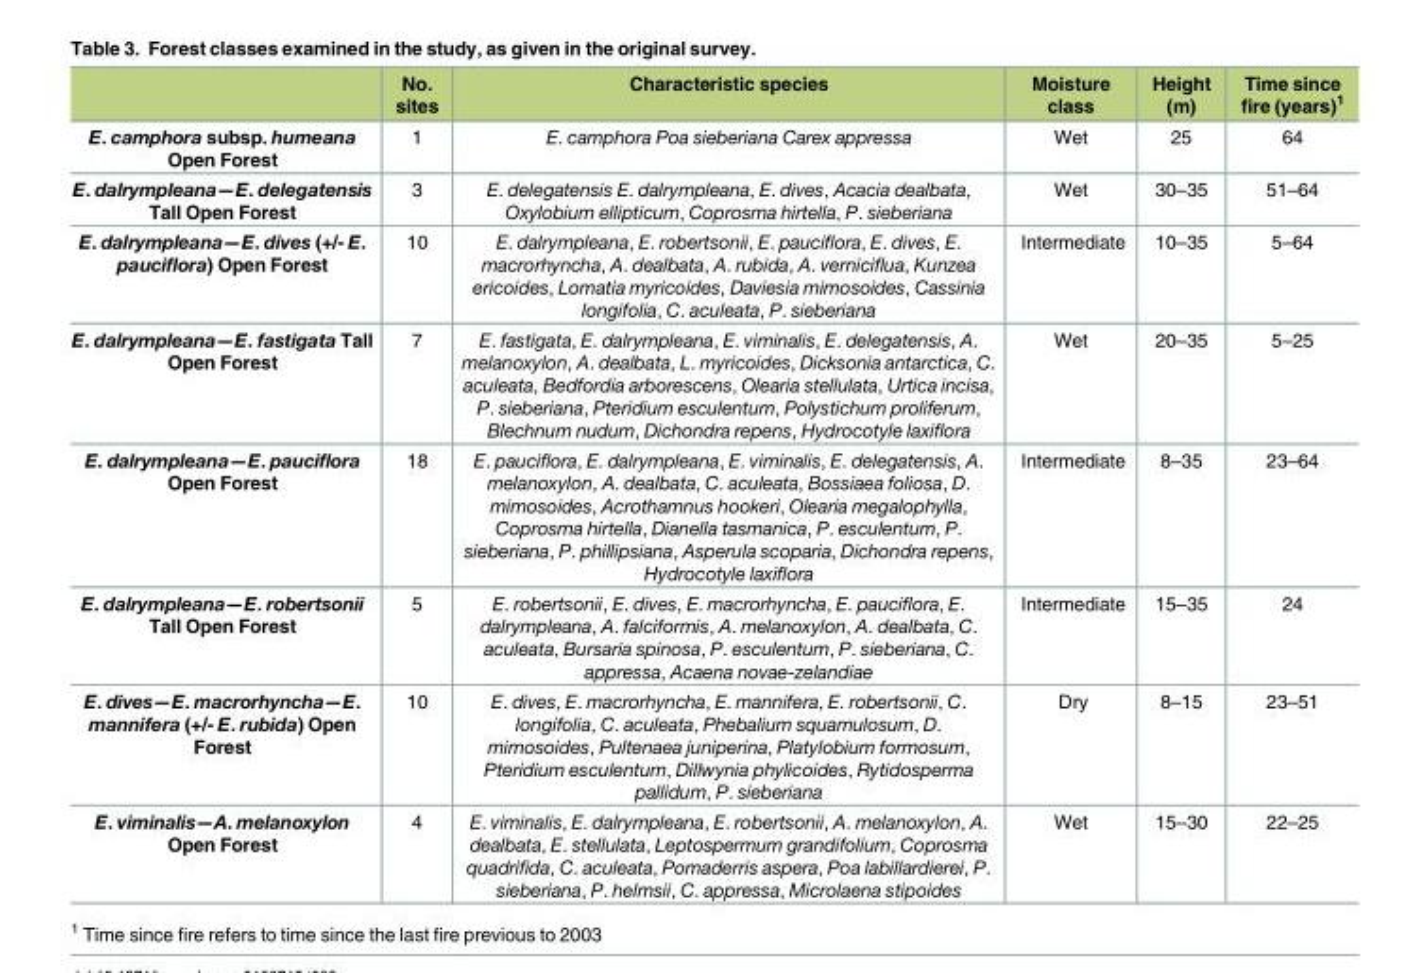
<table><thead><tr><td></td><td>No. sites</td><td>Characteristic species</td><td>Moisture class</td><td>Height (m)</td><td>Time since fire (years)<sup>1</sup></td></tr></thead><tbody><tr><td>E. camphora subsp. humeana Open Forest</td><td>1</td><td>E. camphora Poa sieberiana Carex appressa</td><td>Wet</td><td>25</td><td>64</td></tr><tr><td>E. dalrympleana—E. delegatensis Tall Open Forest</td><td>3</td><td>E. delegatensis E. dalrympleana, E. dives, Acacia dealbata, Oxylobium ellipticum, Coprosma hirtella, P. sieberiana</td><td>Wet</td><td>30–35</td><td>51–64</td></tr><tr><td>E. dalrympleana—E. dives (+/- E. pauciflora) Open Forest</td><td>10</td><td>E. dalrympleana, E. robertsonii, E. pauciflora, E. dives, E. macrorhyncha, A. dealbata, A. rubida, A. verniciflua, Kunzea ericoides, Lomatia myricoides, Daviesia mimosoides, Cassinia longifolia, C. aculeata, P. sieberiana</td><td>Intermediate</td><td>10–35</td><td>5–64</td></tr><tr><td>E. dalrympleana—E. fastigata Tall Open Forest</td><td>7</td><td>E. fastigata, E. dalrympleana, E. viminalis, E. delegatensis, A. melanoxylon, A. dealbata, L. myricoides, Dicksonia antarctica, C. aculeata, Bedfordia arborescens, Olearia stellulata, Urtica incisa, P. sieberiana, Pteridium esculentum, Polystichum proliferum, Blechnum nudum, Dichondra repens, Hydrocotyle laxiflora</td><td>Wet</td><td>20–35</td><td>5–25</td></tr><tr><td>E. dalrympleana—E. pauciflora Open Forest</td><td>18</td><td>E. pauciflora, E. dalrympleana, E. viminalis, E. delegatensis, A. melanoxylon, A. dealbata, C. aculeata, Bossiaea foliosa, D. mimosoides, Acrothamnus hookeri, Olearia megalophylla, Coprosma hirtella, Dianella tasmanica, P. esculentum, P. sieberiana, P. phillipsiana, Asperula scoparia, Dichondra repens, Hydrocotyle laxiflora</td><td>Intermediate</td><td>8–35</td><td>23–64</td></tr><tr><td>E. dalrympleana—E. robertsonii Tall Open Forest</td><td>5</td><td>E. robertsonii, E. dives, E. macrorhyncha, E. pauciflora, E. dalrympleana, A. falciformis, A. melanoxylon, A. dealbata, C. aculeata, Bursaria spinosa, P. esculentum, P. sieberiana, C. appressa, Acaena novae-zelandiae</td><td>Intermediate</td><td>15–35</td><td>24</td></tr><tr><td>E. dives—E. macrorhyncha—E. mannifera (+/- E. rubida) Open Forest</td><td>10</td><td>E. dives, E. macrorhyncha, E. mannifera, E. robertsonii, C. longifolia, C. aculeata, Phebalium squamulosum, D. mimosoides, Pultenaea juniperina, Platylobium formosum, Pteridium esculentum, Dillwynia phylicoides, Rytidosperma pallidum, P. sieberiana</td><td>Dry</td><td>8–15</td><td>23–51</td></tr><tr><td>E. viminalis—A. melanoxylon Open Forest</td><td>4</td><td>E. viminalis, E. dalrympleana, E. robertsonii, A. melanoxylon, A. dealbata, E. stellulata, Leptospermum grandifolium, Coprosma quadrifida, C. aculeata, Pomaderris aspera, Poa labillardierei, P. sieberiana, P. helmsii, C. appressa, Microlaena stipoides</td><td>Wet</td><td>15–30</td><td>22–25</td></tr></tbody></table>